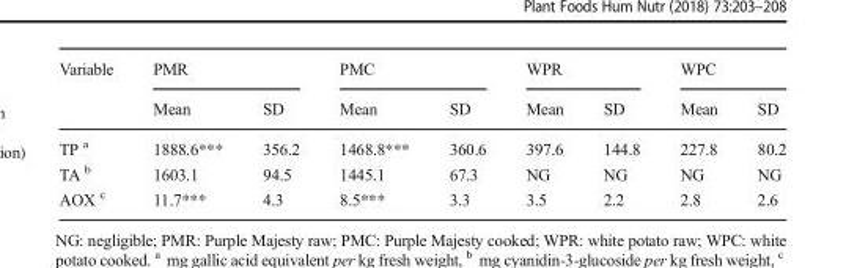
<table><thead><tr><td rowspan="2">Variable</td><td colspan="2">PMR</td><td colspan="2">PMC</td><td colspan="2">WPR</td><td colspan="2">WPC</td></tr><tr><td>Mean</td><td>SD</td><td>Mean</td><td>SD</td><td>Mean</td><td>SD</td><td>Mean</td><td>SD</td></tr></thead><tbody><tr><td>TP <sup>a</sup></td><td>1888.6***</td><td>356.2</td><td>1468.8***</td><td>360.6</td><td>397.6</td><td>144.8</td><td>227.8</td><td>80.2</td></tr><tr><td>TA <sup>b</sup></td><td>1603.1</td><td>94.5</td><td>1445.1</td><td>67.3</td><td>NG</td><td>NG</td><td>NG</td><td>NG</td></tr><tr><td>AOX <sup>c</sup></td><td>11.7***</td><td>4.3</td><td>8.5***</td><td>3.3</td><td>3.5</td><td>2.2</td><td>2.8</td><td>2.6</td></tr></tbody></table>